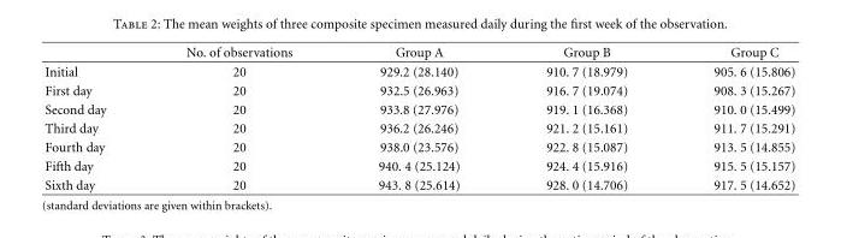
<table><thead><tr><td></td><td>No. of observations</td><td>Group A</td><td>Group B</td><td>Group C</td></tr></thead><tbody><tr><td>Initial</td><td>20</td><td>929.2 (28.140)</td><td>910. 7 (18.979)</td><td>905. 6 (15.806)</td></tr><tr><td>First day</td><td>20</td><td>932.5 (26.963)</td><td>916. 7 (19.074)</td><td>908. 3 (15.267)</td></tr><tr><td>Second day</td><td>20</td><td>933.8 (27.976)</td><td>919. 1 (16.368)</td><td>910. 0 (15.499)</td></tr><tr><td>Third day</td><td>20</td><td>936.2 (26.246)</td><td>921. 2 (15.161)</td><td>911. 7 (15.291)</td></tr><tr><td>Fourth day</td><td>20</td><td>938.0 (23.576)</td><td>922. 8 (15.087)</td><td>913. 5 (14.855)</td></tr><tr><td>Fifth day</td><td>20</td><td>940. 4 (25.124)</td><td>924. 4 (15.916)</td><td>915. 5 (15.157)</td></tr><tr><td>Sixth day</td><td>20</td><td>943. 8 (25.614)</td><td>928. 0 (14.706)</td><td>917. 5 (14.652)</td></tr></tbody></table>